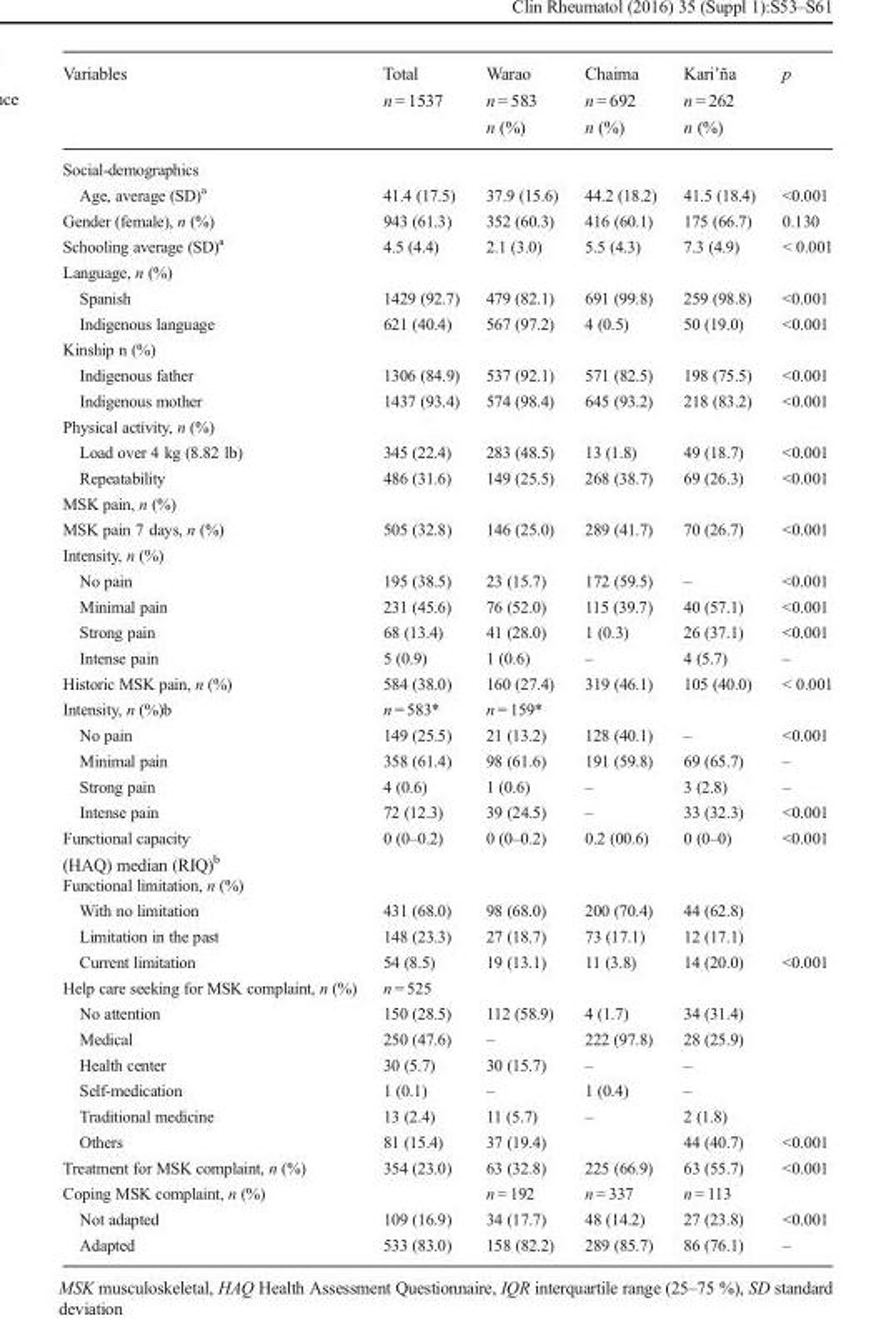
<table><thead><tr><td>Variables</td><td>Total n = 1537</td><td>Warao n = 583 n (%)</td><td>Chaima n = 692 n (%)</td><td>Kari’ña n = 262 n (%)</td><td>p</td></tr></thead><tbody><tr><td colspan="6">Social-demographics</td></tr><tr><td>Age, average (SD)<sup>a</sup></td><td>41.4 (17.5)</td><td>37.9 (15.6)</td><td>44.2 (18.2)</td><td>41.5 (18.4)</td><td>&lt;0.001</td></tr><tr><td>Gender (female), n (%)</td><td>943 (61.3)</td><td>352 (60.3)</td><td>416 (60.1)</td><td>175 (66.7)</td><td>0.130</td></tr><tr><td>Schooling average (SD)<sup>a</sup></td><td>4.5 (4.4)</td><td>2.1 (3.0)</td><td>5.5 (4.3)</td><td>7.3 (4.9)</td><td>&lt; 0.001</td></tr><tr><td colspan="6">Language, n (%)</td></tr><tr><td>Spanish</td><td>1429 (92.7)</td><td>479 (82.1)</td><td>691 (99.8)</td><td>259 (98.8)</td><td>&lt;0.001</td></tr><tr><td>Indigenous language</td><td>621 (40.4)</td><td>567 (97.2)</td><td>4 (0.5)</td><td>50 (19.0)</td><td>&lt;0.001</td></tr><tr><td colspan="6">Kinship n (%)</td></tr><tr><td>Indigenous father</td><td>1306 (84.9)</td><td>537 (92.1)</td><td>571 (82.5)</td><td>198 (75.5)</td><td>&lt;0.001</td></tr><tr><td>Indigenous mother</td><td>1437 (93.4)</td><td>574 (98.4)</td><td>645 (93.2)</td><td>218 (83.2)</td><td>&lt;0.001</td></tr><tr><td colspan="6">Physical activity, n (%)</td></tr><tr><td>Load over 4 kg (8.82 lb)</td><td>345 (22.4)</td><td>283 (48.5)</td><td>13 (1.8)</td><td>49 (18.7)</td><td>&lt;0.001</td></tr><tr><td>Repeatability</td><td>486 (31.6)</td><td>149 (25.5)</td><td>268 (38.7)</td><td>69 (26.3)</td><td>&lt;0.001</td></tr><tr><td colspan="6">MSK pain, n (%)</td></tr><tr><td>MSK pain 7 days, n (%)</td><td>505 (32.8)</td><td>146 (25.0)</td><td>289 (41.7)</td><td>70 (26.7)</td><td>&lt;0.001</td></tr><tr><td colspan="6">Intensity, n (%)</td></tr><tr><td>No pain</td><td>195 (38.5)</td><td>23 (15.7)</td><td>172 (59.5)</td><td>–</td><td>&lt;0.001</td></tr><tr><td>Minimal pain</td><td>231 (45.6)</td><td>76 (52.0)</td><td>115 (39.7)</td><td>40 (57.1)</td><td>&lt;0.001</td></tr><tr><td>Strong pain</td><td>68 (13.4)</td><td>41 (28.0)</td><td>1 (0.3)</td><td>26 (37.1)</td><td>&lt;0.001</td></tr><tr><td>Intense pain</td><td>5 (0.9)</td><td>1 (0.6)</td><td>–</td><td>4 (5.7)</td><td>–</td></tr><tr><td>Historic MSK pain, n (%)</td><td>584 (38.0)</td><td>160 (27.4)</td><td>319 (46.1)</td><td>105 (40.0)</td><td>&lt; 0.001</td></tr><tr><td>Intensity, n (%)b</td><td>n = 583*</td><td>n = 159*</td><td></td><td></td><td></td></tr><tr><td>No pain</td><td>149 (25.5)</td><td>21 (13.2)</td><td>128 (40.1)</td><td>–</td><td>&lt;0.001</td></tr><tr><td>Minimal pain</td><td>358 (61.4)</td><td>98 (61.6)</td><td>191 (59.8)</td><td>69 (65.7)</td><td>–</td></tr><tr><td>Strong pain</td><td>4 (0.6)</td><td>1 (0.6)</td><td>–</td><td>3 (2.8)</td><td>–</td></tr><tr><td>Intense pain</td><td>72 (12.3)</td><td>39 (24.5)</td><td>–</td><td>33 (32.3)</td><td>&lt;0.001</td></tr><tr><td>Functional capacity (HAQ) median (RIQ)<sup>b</sup></td><td>0 (0–0.2)</td><td>0 (0–0.2)</td><td>0.2 (00.6)</td><td>0 (0–0)</td><td>&lt;0.001</td></tr><tr><td colspan="6">Functional limitation, n (%)</td></tr><tr><td>With no limitation</td><td>431 (68.0)</td><td>98 (68.0)</td><td>200 (70.4)</td><td>44 (62.8)</td><td></td></tr><tr><td>Limitation in the past</td><td>148 (23.3)</td><td>27 (18.7)</td><td>73 (17.1)</td><td>12 (17.1)</td><td></td></tr><tr><td>Current limitation</td><td>54 (8.5)</td><td>19 (13.1)</td><td>11 (3.8)</td><td>14 (20.0)</td><td>&lt;0.001</td></tr><tr><td>Help care seeking for MSK complaint, n (%)</td><td>n = 525</td><td></td><td></td><td></td><td></td></tr><tr><td>No attention</td><td>150 (28.5)</td><td>112 (58.9)</td><td>4 (1.7)</td><td>34 (31.4)</td><td></td></tr><tr><td>Medical</td><td>250 (47.6)</td><td>–</td><td>222 (97.8)</td><td>28 (25.9)</td><td></td></tr><tr><td>Health center</td><td>30 (5.7)</td><td>30 (15.7)</td><td>–</td><td>–</td><td></td></tr><tr><td>Self-medication</td><td>1 (0.1)</td><td>–</td><td>1 (0.4)</td><td>–</td><td></td></tr><tr><td>Traditional medicine</td><td>13 (2.4)</td><td>11 (5.7)</td><td>–</td><td>2 (1.8)</td><td></td></tr><tr><td>Others</td><td>81 (15.4)</td><td>37 (19.4)</td><td></td><td>44 (40.7)</td><td>&lt;0.001</td></tr><tr><td>Treatment for MSK complaint, n (%)</td><td>354 (23.0)</td><td>63 (32.8)</td><td>225 (66.9)</td><td>63 (55.7)</td><td>&lt;0.001</td></tr><tr><td>Coping MSK complaint, n (%)</td><td></td><td>n = 192</td><td>n = 337</td><td>n = 113</td><td></td></tr><tr><td>Not adapted</td><td>109 (16.9)</td><td>34 (17.7)</td><td>48 (14.2)</td><td>27 (23.8)</td><td>&lt;0.001</td></tr><tr><td>Adapted</td><td>533 (83.0)</td><td>158 (82.2)</td><td>289 (85.7)</td><td>86 (76.1)</td><td>–</td></tr></tbody></table>